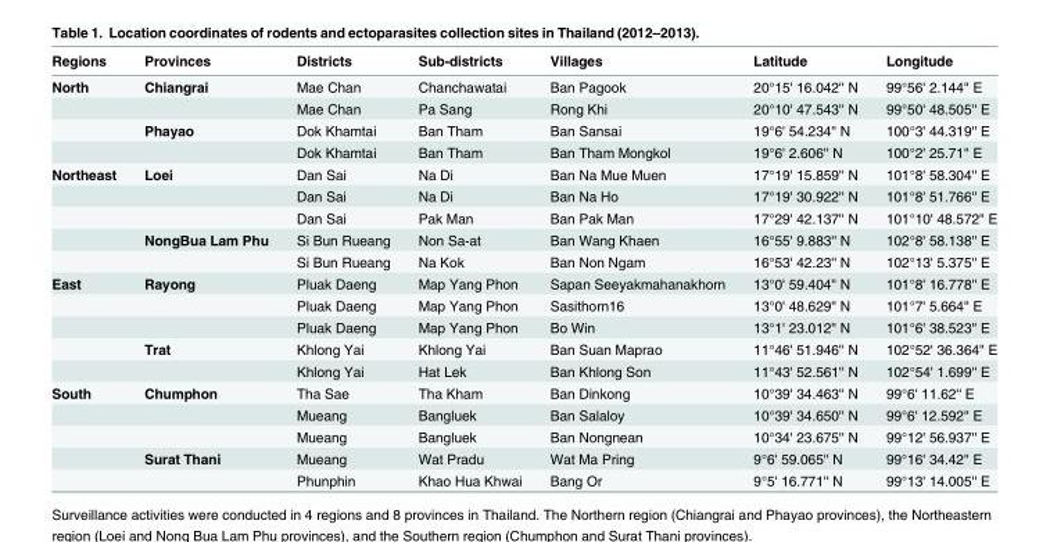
<table><thead><tr><td>Regions</td><td>Provinces</td><td>Districts</td><td>Sub-districts</td><td>Villages</td><td>Latitude</td><td>Longitude</td></tr></thead><tbody><tr><td rowspan="4">North</td><td>Chiangrai</td><td>Mae Chan</td><td>Chanchawatai</td><td>Ban Pagook</td><td>20°15&#x27; 16.042&#x27;&#x27; N</td><td>99°56&#x27; 2.144&#x27;&#x27; E</td></tr><tr><td></td><td>Mae Chan</td><td>Pa Sang</td><td>Rong Khi</td><td>20°10&#x27; 47.543&#x27;&#x27; N</td><td>99°50&#x27; 48.505&#x27;&#x27; E</td></tr><tr><td>Phayao</td><td>Dok Khamtai</td><td>Ban Tham</td><td>Ban Sansai</td><td>19°6&#x27; 54.234&#x27;&#x27; N</td><td>100°3&#x27; 44.319&#x27;&#x27; E</td></tr><tr><td></td><td>Dok Khamtai</td><td>Ban Tham</td><td>Ban Tham Mongkol</td><td>19°6&#x27; 2.606&#x27;&#x27; N</td><td>100°2&#x27; 25.71&#x27;&#x27; E</td></tr><tr><td rowspan="5">Northeast</td><td>Loei</td><td>Dan Sai</td><td>Na Di</td><td>Ban Na Mue Muen</td><td>17°19&#x27; 15.859&#x27;&#x27; N</td><td>101°8&#x27; 58.304&#x27;&#x27; E</td></tr><tr><td></td><td>Dan Sai</td><td>Na Di</td><td>Ban Na Ho</td><td>17°19&#x27; 30.922&#x27;&#x27; N</td><td>101°8&#x27; 51.766&#x27;&#x27; E</td></tr><tr><td></td><td>Dan Sai</td><td>Pak Man</td><td>Ban Pak Man</td><td>17°29&#x27; 42.137&#x27;&#x27; N</td><td>101°10&#x27; 48.572&#x27;&#x27; E</td></tr><tr><td>NongBua Lam Phu</td><td>Si Bun Rueang</td><td>Non Sa-at</td><td>Ban Wang Khaen</td><td>16°55&#x27; 9.883&#x27;&#x27; N</td><td>102°8&#x27; 58.138&#x27;&#x27; E</td></tr><tr><td></td><td>Si Bun Rueang</td><td>Na Kok</td><td>Ban Non Ngam</td><td>16°53&#x27; 42.23&#x27;&#x27; N</td><td>102°13&#x27; 5.375&#x27;&#x27; E</td></tr><tr><td rowspan="5">East</td><td>Rayong</td><td>Pluak Daeng</td><td>Map Yang Phon</td><td>Sapan Seeyakmahanakhorn</td><td>13°0&#x27; 59.404&#x27;&#x27; N</td><td>101°8&#x27; 16.778&#x27;&#x27; E</td></tr><tr><td></td><td>Pluak Daeng</td><td>Map Yang Phon</td><td>Sasithorn16</td><td>13°0&#x27; 48.629&#x27;&#x27; N</td><td>101°7&#x27; 5.664&#x27;&#x27; E</td></tr><tr><td></td><td>Pluak Daeng</td><td>Map Yang Phon</td><td>Bo Win</td><td>13°1&#x27; 23.012&#x27;&#x27; N</td><td>101°6&#x27; 38.523&#x27;&#x27; E</td></tr><tr><td>Trat</td><td>Khlong Yai</td><td>Khlong Yai</td><td>Ban Suan Maprao</td><td>11°46&#x27; 51.946&#x27;&#x27; N</td><td>102°52&#x27; 36.364&#x27;&#x27; E</td></tr><tr><td></td><td>Khlong Yai</td><td>Hat Lek</td><td>Ban Khlong Son</td><td>11°43&#x27; 52.561&#x27;&#x27; N</td><td>102°54&#x27; 1.699&#x27;&#x27; E</td></tr><tr><td rowspan="5">South</td><td>Chumphon</td><td>Tha Sae</td><td>Tha Kham</td><td>Ban Dinkong</td><td>10°39&#x27; 34.463&#x27;&#x27; N</td><td>99°6&#x27; 11.62&#x27;&#x27; E</td></tr><tr><td></td><td>Mueang</td><td>Bangluek</td><td>Ban Salaloy</td><td>10°39&#x27; 34.650&#x27;&#x27; N</td><td>99°6&#x27; 12.592&#x27;&#x27; E</td></tr><tr><td></td><td>Mueang</td><td>Bangluek</td><td>Ban Nongnean</td><td>10°34&#x27; 23.675&#x27;&#x27; N</td><td>99°12&#x27; 56.937&#x27;&#x27; E</td></tr><tr><td>Surat Thani</td><td>Mueang</td><td>Wat Pradu</td><td>Wat Ma Pring</td><td>9°6&#x27; 59.065&#x27;&#x27; N</td><td>99°16&#x27; 34.42&#x27;&#x27; E</td></tr><tr><td></td><td>Phunphin</td><td>Khao Hua Khwai</td><td>Bang Or</td><td>9°5&#x27; 16.771&#x27;&#x27; N</td><td>99°13&#x27; 14.005&#x27;&#x27; E</td></tr></tbody></table>